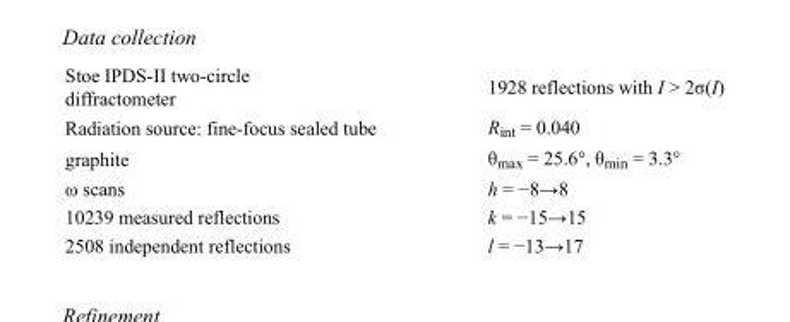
<table><tbody><tr><td>Stoe IPDS-II two-circle diffractometer</td><td>1928 reflections with I &gt; 2σ(I)</td></tr><tr><td>Radiation source: fine-focus sealed tube</td><td>R<sub>int</sub> = 0.040</td></tr><tr><td>graphite</td><td>θ<sub>max</sub> = 25.6°, θ<sub>min</sub> = 3.3°</td></tr><tr><td>ω scans</td><td>h = −8→8</td></tr><tr><td>10239 measured reflections</td><td>k = −15→15</td></tr><tr><td>2508 independent reflections</td><td>l = −13→17</td></tr></tbody></table>